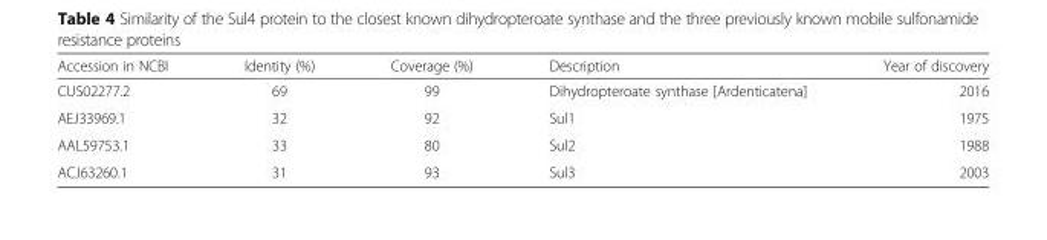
<table><thead><tr><td>Accession in NCBI</td><td>Identity (%)</td><td>Coverage (%)</td><td>Description</td><td>Year of discovery</td></tr></thead><tbody><tr><td>CUS02277.2</td><td>69</td><td>99</td><td>Dihydropteroate synthase [Ardenticatena]</td><td>2016</td></tr><tr><td>AEJ33969.1</td><td>32</td><td>92</td><td>Sul1</td><td>1975</td></tr><tr><td>AAL59753.1</td><td>33</td><td>80</td><td>Sul2</td><td>1988</td></tr><tr><td>ACJ63260.1</td><td>31</td><td>93</td><td>Sul3</td><td>2003</td></tr></tbody></table>